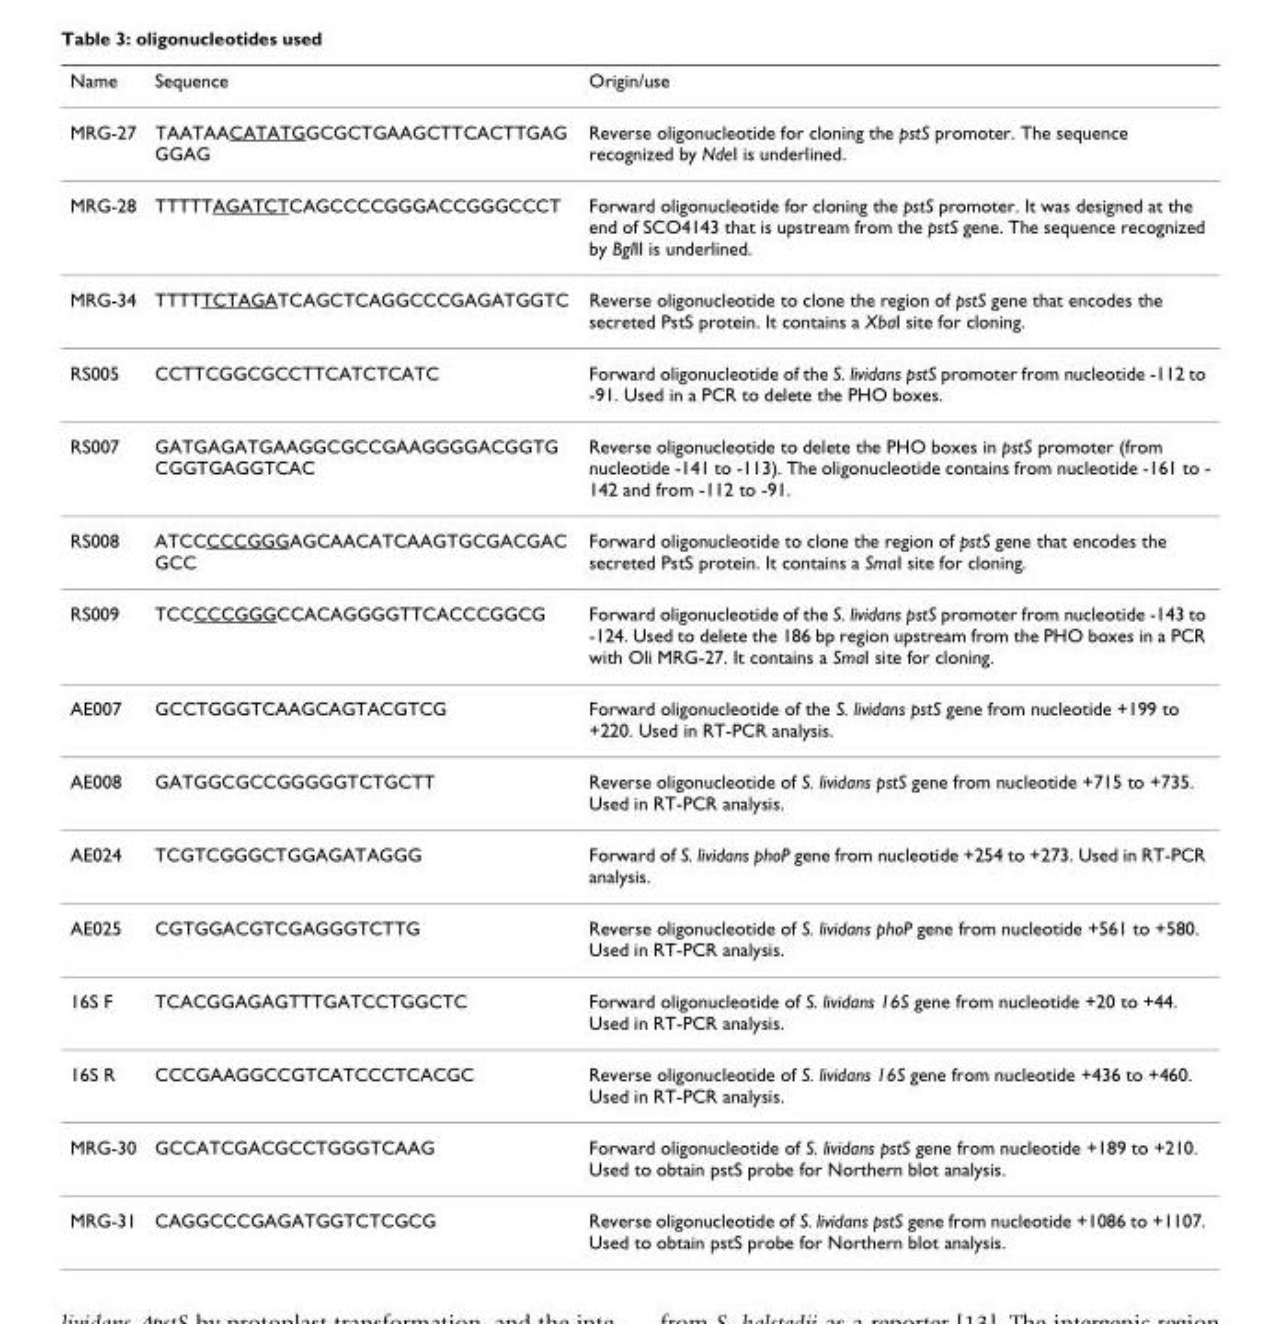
<table><thead><tr><td>Name</td><td>Sequence</td><td>Origin/use</td></tr></thead><tbody><tr><td>MRG-27</td><td>TAATAACATATGGCGCTGAAGCTTCACTTGAG GGAG</td><td>Reverse oligonucleotide for cloning the pstS promoter. The sequence recognized by NdeI is underlined.</td></tr><tr><td>MRG-28</td><td>TTTTTAGATCTCAGCCCCGGGACCGGGCCCT</td><td>Forward oligonucleotide for cloning the pstS promoter. It was designed at the end of SCO4143 that is upstream from the pstS gene. The sequence recognized by BglII is underlined.</td></tr><tr><td>MRG-34</td><td>TTTTTCTAGATCAGCTCAGGCCCGAGATGGTC</td><td>Reverse oligonucleotide to clone the region of pstS gene that encodes the secreted PstS protein. It contains a XbaI site for cloning.</td></tr><tr><td>RS005</td><td>CCTTCGGCGCCTTCATCTCATC</td><td>Forward oligonucleotide of the S. lividans pstS promoter from nucleotide -112 to -91. Used in a PCR to delete the PHO boxes.</td></tr><tr><td>RS007</td><td>GATGAGATGAAGGCGCCGAAGGGGACGGTG CGGTGAGGTCAC</td><td>Reverse oligonucleotide to delete the PHO boxes in pstS promoter (from nucleotide -141 to -113). The oligonucleotide contains from nucleotide -161 to - 142 and from -112 to -91.</td></tr><tr><td>RS008</td><td>ATCCCCCGGGAGCAACATCAAGTGCGACGAC GCC</td><td>Forward oligonucleotide to clone the region of pstS gene that encodes the secreted PstS protein. It contains a SmaI site for cloning.</td></tr><tr><td>RS009</td><td>TCCCCCGGGCCACAGGGGTTCACCCGGCG</td><td>Forward oligonucleotide of the S. lividans pstS promoter from nucleotide -143 to -124. Used to delete the 186 bp region upstream from the PHO boxes in a PCR with Oli MRG-27. It contains a SmaI site for cloning.</td></tr><tr><td>AE007</td><td>GCCTGGGTCAAGCAGTACGTCG</td><td>Forward oligonucleotide of the S. lividans pstS gene from nucleotide +199 to +220. Used in RT-PCR analysis.</td></tr><tr><td>AE008</td><td>GATGGCGCCGGGGGTCTGCTT</td><td>Reverse oligonucleotide of S. lividans pstS gene from nucleotide +715 to +735. Used in RT-PCR analysis.</td></tr><tr><td>AE024</td><td>TCGTCGGGCTGGAGATAGGG</td><td>Forward of S. lividans phoP gene from nucleotide +254 to +273. Used in RT-PCR analysis.</td></tr><tr><td>AE025</td><td>CGTGGACGTCGAGGGTCTTG</td><td>Reverse oligonucleotide of S. lividans phoP gene from nucleotide +561 to +580. Used in RT-PCR analysis.</td></tr><tr><td>16S F</td><td>TCACGGAGAGTTTGATCCTGGCTC</td><td>Forward oligonucleotide of S. lividans 16S gene from nucleotide +20 to +44. Used in RT-PCR analysis.</td></tr><tr><td>16S R</td><td>CCCGAAGGCCGTCATCCCTCACGC</td><td>Reverse oligonucleotide of S. lividans 16S gene from nucleotide +436 to +460. Used in RT-PCR analysis.</td></tr><tr><td>MRG-30</td><td>GCCATCGACGCCTGGGTCAAG</td><td>Forward oligonucleotide of S. lividans pstS gene from nucleotide +189 to +210. Used to obtain pstS probe for Northern blot analysis.</td></tr><tr><td>MRG-31</td><td>CAGGCCCGAGATGGTCTCGCG</td><td>Reverse oligonucleotide of S. lividans pstS gene from nucleotide +1086 to +1107. Used to obtain pstS probe for Northern blot analysis.</td></tr></tbody></table>